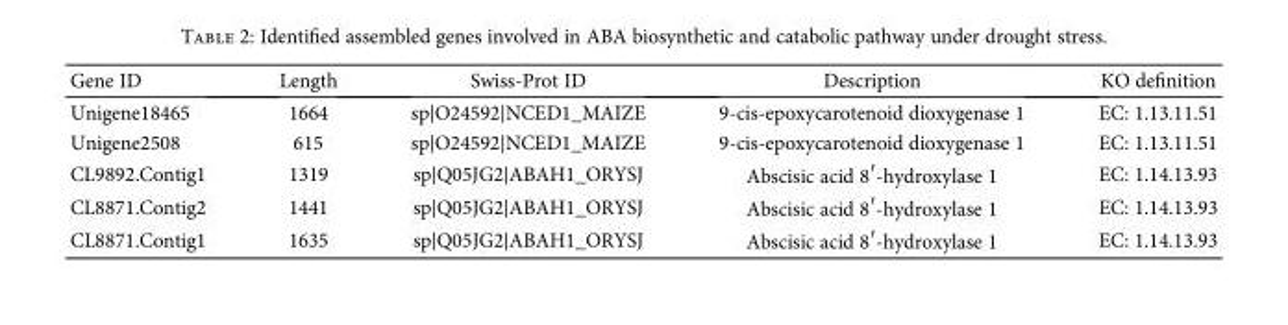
<table><thead><tr><td>Gene ID</td><td>Length</td><td>Swiss-Prot ID</td><td>Description</td><td>KO definition</td></tr></thead><tbody><tr><td>Unigene18465</td><td>1664</td><td>sp|O24592|NCED1_MAIZE</td><td>9-cis-epoxycarotenoid dioxygenase 1</td><td>EC: 1.13.11.51</td></tr><tr><td>Unigene2508</td><td>615</td><td>sp|O24592|NCED1_MAIZE</td><td>9-cis-epoxycarotenoid dioxygenase 1</td><td>EC: 1.13.11.51</td></tr><tr><td>CL9892.Contig1</td><td>1319</td><td>sp|Q05JG2|ABAH1_ORYSJ</td><td>Abscisic acid 8′-hydroxylase 1</td><td>EC: 1.14.13.93</td></tr><tr><td>CL8871.Contig2</td><td>1441</td><td>sp|Q05JG2|ABAH1_ORYSJ</td><td>Abscisic acid 8′-hydroxylase 1</td><td>EC: 1.14.13.93</td></tr><tr><td>CL8871.Contig1</td><td>1635</td><td>sp|Q05JG2|ABAH1_ORYSJ</td><td>Abscisic acid 8′-hydroxylase 1</td><td>EC: 1.14.13.93</td></tr></tbody></table>